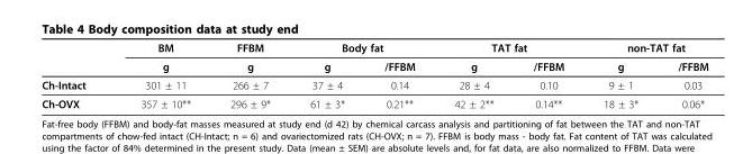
<table><thead><tr><td rowspan="2"></td><td rowspan="2">BM g</td><td rowspan="2">FFBM g</td><td colspan="2">Body fat</td><td colspan="2">TAT fat</td><td colspan="2">non-TAT fat</td></tr><tr><td>g</td><td>/FFBM</td><td>g</td><td>/FFBM</td><td>g</td><td>/FFBM</td></tr></thead><tbody><tr><td>Ch-Intact</td><td>301 ± 11</td><td>266 ± 7</td><td>37 ± 4</td><td>0.14</td><td>28 ± 4</td><td>0.10</td><td>9 ± 1</td><td>0.03</td></tr><tr><td>Ch-OVX</td><td>357 ± 10**</td><td>296 ± 9*</td><td>61 ± 3*</td><td>0.21**</td><td>42 ± 2**</td><td>0.14**</td><td>18 ± 3*</td><td>0.06*</td></tr></tbody></table>